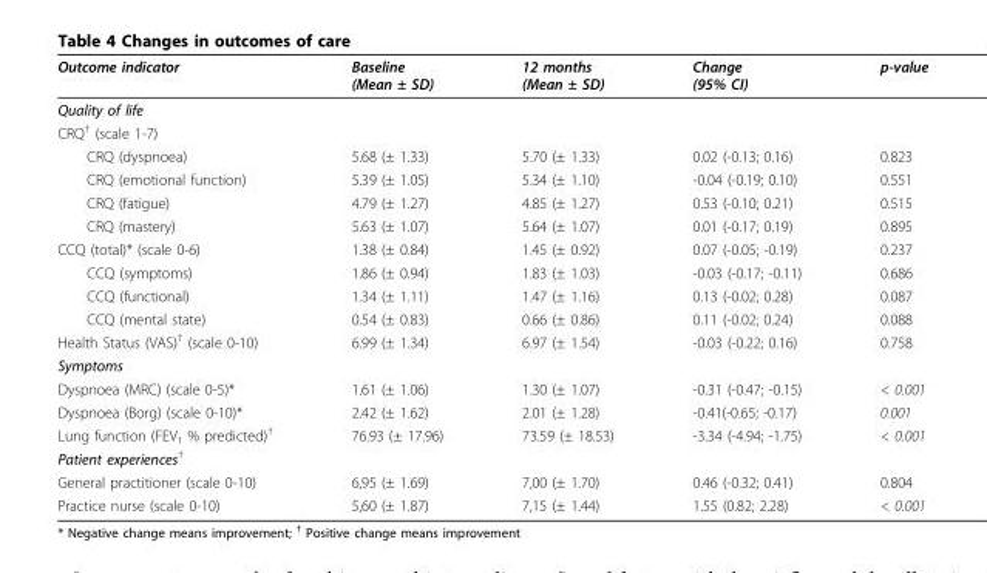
<table><thead><tr><td>Outcome indicator</td><td>Baseline (Mean ± SD)</td><td>12 months (Mean ± SD)</td><td>Change (95% CI)</td><td>p-value</td></tr></thead><tbody><tr><td colspan="5">Quality of life</td></tr><tr><td colspan="5">CRQ<sup>†</sup> (scale 1-7)</td></tr><tr><td>CRQ (dyspnoea)</td><td>5.68 (± 1.33)</td><td>5.70 (± 1.33)</td><td>0.02 (-0.13; 0.16)</td><td>0.823</td></tr><tr><td>CRQ (emotional function)</td><td>5.39 (± 1.05)</td><td>5.34 (± 1.10)</td><td>-0.04 (-0.19; 0.10)</td><td>0.551</td></tr><tr><td>CRQ (fatigue)</td><td>4.79 (± 1.27)</td><td>4.85 (± 1.27)</td><td>0.53 (-0.10; 0.21)</td><td>0.515</td></tr><tr><td>CRQ (mastery)</td><td>5.63 (± 1.07)</td><td>5.64 (± 1.07)</td><td>0.01 (-0.17; 0.19)</td><td>0.895</td></tr><tr><td>CCQ (total)* (scale 0-6)</td><td>1.38 (± 0.84)</td><td>1.45 (± 0.92)</td><td>0.07 (-0.05; -0.19)</td><td>0.237</td></tr><tr><td>CCQ (symptoms)</td><td>1.86 (± 0.94)</td><td>1.83 (± 1.03)</td><td>-0.03 (-0.17; -0.11)</td><td>0.686</td></tr><tr><td>CCQ (functional)</td><td>1.34 (± 1.11)</td><td>1.47 (± 1.16)</td><td>0.13 (-0.02; 0.28)</td><td>0.087</td></tr><tr><td>CCQ (mental state)</td><td>0.54 (± 0.83)</td><td>0.66 (± 0.86)</td><td>0.11 (-0.02; 0.24)</td><td>0.088</td></tr><tr><td>Health Status (VAS)<sup>†</sup> (scale 0-10)</td><td>6.99 (± 1.34)</td><td>6.97 (± 1.54)</td><td>-0.03 (-0.22; 0.16)</td><td>0.758</td></tr><tr><td colspan="5">Symptoms</td></tr><tr><td>Dyspnoea (MRC) (scale 0-5)*</td><td>1.61 (± 1.06)</td><td>1.30 (± 1.07)</td><td>-0.31 (-0.47; -0.15)</td><td>&lt; 0.001</td></tr><tr><td>Dyspnoea (Borg) (scale 0-10)*</td><td>2.42 (± 1.62)</td><td>2.01 (± 1.28)</td><td>-0.41(-0.65; -0.17)</td><td>0.001</td></tr><tr><td>Lung function (FEV<sub>1</sub> % predicted)<sup>†</sup></td><td>76.93 (± 17.96)</td><td>73.59 (± 18.53)</td><td>-3.34 (-4.94; -1.75)</td><td>&lt; 0.001</td></tr><tr><td colspan="5">Patient experiences<sup>†</sup></td></tr><tr><td>General practitioner (scale 0-10)</td><td>6,95 (± 1.69)</td><td>7,00 (± 1.70)</td><td>0.46 (-0.32; 0.41)</td><td>0.804</td></tr><tr><td>Practice nurse (scale 0-10)</td><td>5,60 (± 1.87)</td><td>7,15 (± 1.44)</td><td>1.55 (0.82; 2.28)</td><td>&lt; 0.001</td></tr></tbody></table>